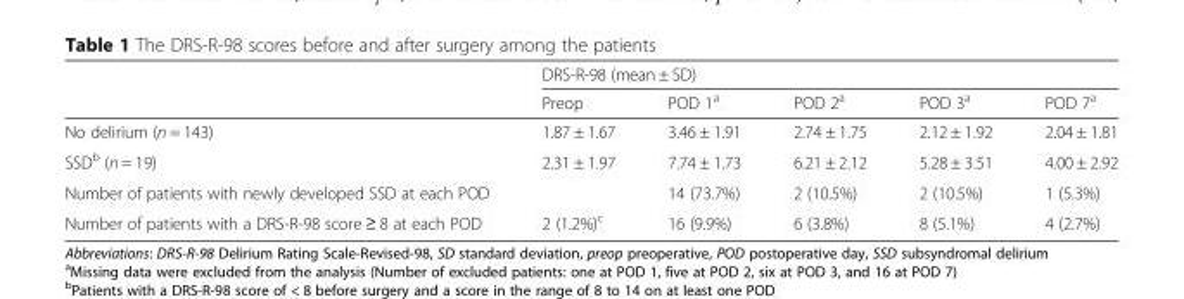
<table><thead><tr><td rowspan="2"></td><td colspan="5">DRS-R-98 (mean ± SD)</td></tr><tr><td>Preop</td><td>POD 1<sup>a</sup></td><td>POD 2<sup>a</sup></td><td>POD 3<sup>a</sup></td><td>POD 7<sup>a</sup></td></tr></thead><tbody><tr><td>No delirium (n = 143)</td><td>1.87 ± 1.67</td><td>3.46 ± 1.91</td><td>2.74 ± 1.75</td><td>2.12 ± 1.92</td><td>2.04 ± 1.81</td></tr><tr><td>SSD<sup>b</sup> (n = 19)</td><td>2.31 ± 1.97</td><td>7.74 ± 1.73</td><td>6.21 ± 2.12</td><td>5.28 ± 3.51</td><td>4.00 ± 2.92</td></tr><tr><td>Number of patients with newly developed SSD at each POD</td><td></td><td>14 (73.7%)</td><td>2 (10.5%)</td><td>2 (10.5%)</td><td>1 (5.3%)</td></tr><tr><td>Number of patients with a DRS-R-98 score ≥ 8 at each POD</td><td>2 (1.2%)<sup>c</sup></td><td>16 (9.9%)</td><td>6 (3.8%)</td><td>8 (5.1%)</td><td>4 (2.7%)</td></tr></tbody></table>